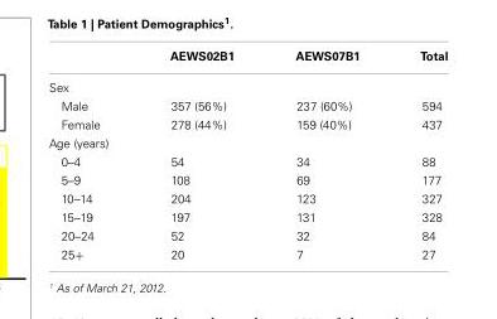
<table><thead><tr><td></td><td>AEWS02B1</td><td>AEWS07B1</td><td>Total</td></tr></thead><tbody><tr><td colspan="4">Sex</td></tr><tr><td>Male</td><td>357 (56%)</td><td>237 (60%)</td><td>594</td></tr><tr><td>Female</td><td>278 (44%)</td><td>159 (40%)</td><td>437</td></tr><tr><td colspan="4">Age (years)</td></tr><tr><td>0–4</td><td>54</td><td>34</td><td>88</td></tr><tr><td>5–9</td><td>108</td><td>69</td><td>177</td></tr><tr><td>10–14</td><td>204</td><td>123</td><td>327</td></tr><tr><td>15–19</td><td>197</td><td>131</td><td>328</td></tr><tr><td>20–24</td><td>52</td><td>32</td><td>84</td></tr><tr><td>25+</td><td>20</td><td>7</td><td>27</td></tr></tbody></table>